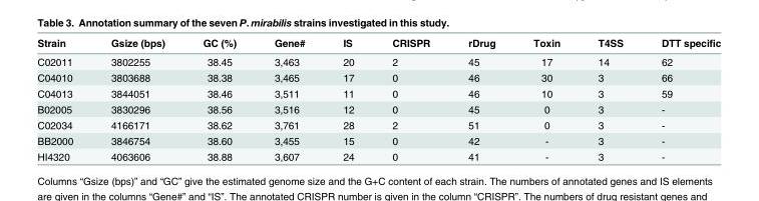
<table><thead><tr><td>Strain</td><td>Gsize (bps)</td><td>GC (%)</td><td>Gene#</td><td>IS</td><td>CRISPR</td><td>rDrug</td><td>Toxin</td><td>T4SS</td><td>DTT specific</td></tr></thead><tbody><tr><td>C02011</td><td>3802255</td><td>38.45</td><td>3,463</td><td>20</td><td>2</td><td>45</td><td>17</td><td>14</td><td>62</td></tr><tr><td>C04010</td><td>3803688</td><td>38.38</td><td>3,465</td><td>17</td><td>0</td><td>46</td><td>30</td><td>3</td><td>66</td></tr><tr><td>C04013</td><td>3844051</td><td>38.46</td><td>3,511</td><td>11</td><td>0</td><td>46</td><td>10</td><td>3</td><td>59</td></tr><tr><td>B02005</td><td>3830296</td><td>38.56</td><td>3,516</td><td>12</td><td>0</td><td>45</td><td>0</td><td>3</td><td>-</td></tr><tr><td>C02034</td><td>4166171</td><td>38.62</td><td>3,761</td><td>28</td><td>2</td><td>51</td><td>0</td><td>3</td><td>-</td></tr><tr><td>BB2000</td><td>3846754</td><td>38.60</td><td>3,455</td><td>15</td><td>0</td><td>42</td><td>-</td><td>3</td><td>-</td></tr><tr><td>HI4320</td><td>4063606</td><td>38.88</td><td>3,607</td><td>24</td><td>0</td><td>41</td><td>-</td><td>3</td><td>-</td></tr></tbody></table>